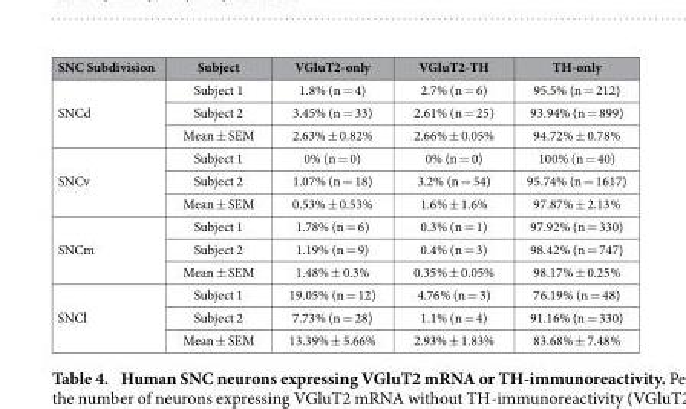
<table><thead><tr><td>SNC Subdivision</td><td>Subject</td><td>VGluT2-only</td><td>VGluT2-TH</td><td>TH-only</td></tr></thead><tbody><tr><td rowspan="3">SNCd</td><td>Subject 1</td><td>1.8% (n = 4)</td><td>2.7% (n = 6)</td><td>95.5% (n = 212)</td></tr><tr><td>Subject 2</td><td>3.45% (n = 33)</td><td>2.61% (n = 25)</td><td>93.94% (n = 899)</td></tr><tr><td>Mean ± SEM</td><td>2.63% ± 0.82%</td><td>2.66% ± 0.05%</td><td>94.72% ± 0.78%</td></tr><tr><td rowspan="3">SNCv</td><td>Subject 1</td><td>0% (n = 0)</td><td>0% (n = 0)</td><td>100% (n = 40)</td></tr><tr><td>Subject 2</td><td>1.07% (n = 18)</td><td>3.2% (n = 54)</td><td>95.74% (n = 1617)</td></tr><tr><td>Mean ± SEM</td><td>0.53% ± 0.53%</td><td>1.6% ± 1.6%</td><td>97.87% ± 2.13%</td></tr><tr><td rowspan="3">SNCm</td><td>Subject 1</td><td>1.78% (n = 6)</td><td>0.3% (n = 1)</td><td>97.92% (n = 330)</td></tr><tr><td>Subject 2</td><td>1.19% (n = 9)</td><td>0.4% (n = 3)</td><td>98.42% (n = 747)</td></tr><tr><td>Mean ± SEM</td><td>1.48% ± 0.3%</td><td>0.35% ± 0.05%</td><td>98.17% ± 0.25%</td></tr><tr><td rowspan="3">SNCl</td><td>Subject 1</td><td>19.05% (n = 12)</td><td>4.76% (n = 3)</td><td>76.19% (n = 48)</td></tr><tr><td>Subject 2</td><td>7.73% (n = 28)</td><td>1.1% (n = 4)</td><td>91.16% (n = 330)</td></tr><tr><td>Mean ± SEM</td><td>13.39% ± 5.66%</td><td>2.93% ± 1.83%</td><td>83.68% ± 7.48%</td></tr></tbody></table>